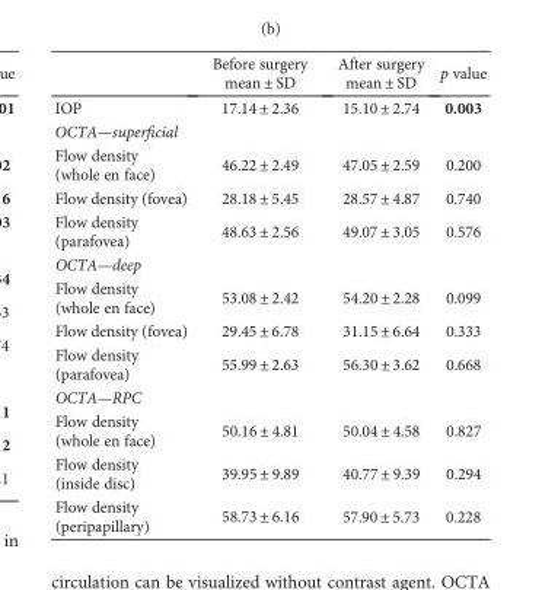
<table><thead><tr><td></td><td>Before surgery mean ± SD</td><td>After surgery mean ± SD</td><td>p value</td></tr></thead><tbody><tr><td>IOP</td><td>17.14 ± 2.36</td><td>15.10 ± 2.74</td><td>0.003</td></tr><tr><td colspan="4">OCTA—superficial</td></tr><tr><td>Flow density (whole en face)</td><td>46.22 ± 2.49</td><td>47.05 ± 2.59</td><td>0.200</td></tr><tr><td>Flow density (fovea)</td><td>28.18 ± 5.45</td><td>28.57 ± 4.87</td><td>0.740</td></tr><tr><td>Flow density (parafovea)</td><td>48.63 ± 2.56</td><td>49.07 ± 3.05</td><td>0.576</td></tr><tr><td colspan="4">OCTA—deep</td></tr><tr><td>Flow density (whole en face)</td><td>53.08 ± 2.42</td><td>54.20 ± 2.28</td><td>0.099</td></tr><tr><td>Flow density (fovea)</td><td>29.45 ± 6.78</td><td>31.15 ± 6.64</td><td>0.333</td></tr><tr><td>Flow density (parafovea)</td><td>55.99 ± 2.63</td><td>56.30 ± 3.62</td><td>0.668</td></tr><tr><td colspan="4">OCTA—RPC</td></tr><tr><td>Flow density (whole en face)</td><td>50.16 ± 4.81</td><td>50.04 ± 4.58</td><td>0.827</td></tr><tr><td>Flow density (inside disc)</td><td>39.95 ± 9.89</td><td>40.77 ± 9.39</td><td>0.294</td></tr><tr><td>Flow density (peripapillary)</td><td>58.73 ± 6.16</td><td>57.90 ± 5.73</td><td>0.228</td></tr></tbody></table>